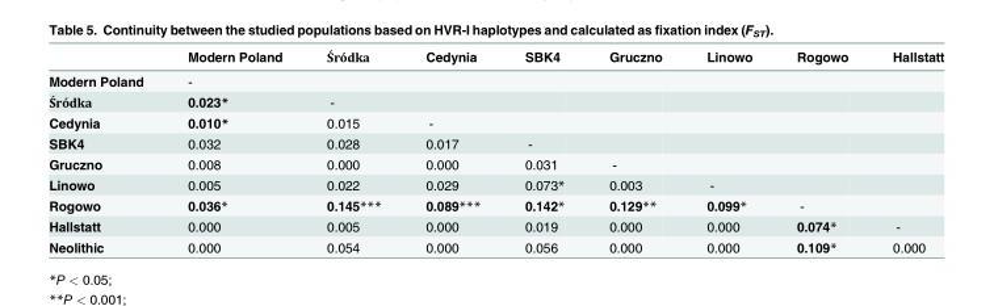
<table><thead><tr><td></td><td>Modern Poland</td><td>Śródka</td><td>Cedynia</td><td>SBK4</td><td>Gruczno</td><td>Linowo</td><td>Rogowo</td><td>Hallstatt</td></tr></thead><tbody><tr><td>Modern Poland</td><td>-</td><td></td><td></td><td></td><td></td><td></td><td></td><td></td></tr><tr><td>Śródka</td><td>0.023*</td><td>-</td><td></td><td></td><td></td><td></td><td></td><td></td></tr><tr><td>Cedynia</td><td>0.010*</td><td>0.015</td><td>-</td><td></td><td></td><td></td><td></td><td></td></tr><tr><td>SBK4</td><td>0.032</td><td>0.028</td><td>0.017</td><td>-</td><td></td><td></td><td></td><td></td></tr><tr><td>Gruczno</td><td>0.008</td><td>0.000</td><td>0.000</td><td>0.031</td><td>-</td><td></td><td></td><td></td></tr><tr><td>Linowo</td><td>0.005</td><td>0.022</td><td>0.029</td><td>0.073*</td><td>0.003</td><td>-</td><td></td><td></td></tr><tr><td>Rogowo</td><td>0.036*</td><td>0.145***</td><td>0.089***</td><td>0.142*</td><td>0.129**</td><td>0.099*</td><td>-</td><td></td></tr><tr><td>Hallstatt</td><td>0.000</td><td>0.005</td><td>0.000</td><td>0.019</td><td>0.000</td><td>0.000</td><td>0.074*</td><td>-</td></tr><tr><td>Neolithic</td><td>0.000</td><td>0.054</td><td>0.000</td><td>0.056</td><td>0.000</td><td>0.000</td><td>0.109*</td><td>0.000</td></tr></tbody></table>